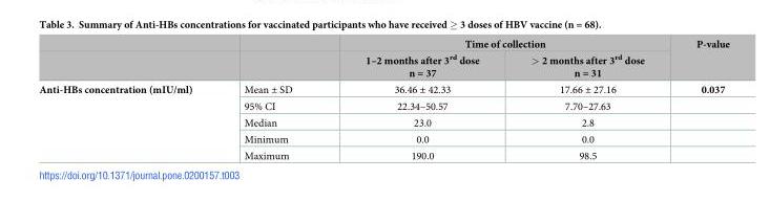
<table><thead><tr><td rowspan="2"></td><td rowspan="2"></td><td colspan="2">Time of collection</td><td rowspan="2">P-value</td></tr><tr><td>1–2 months after 3<sup>rd</sup> dose n = 37</td><td>&gt; 2 months after 3<sup>rd</sup> dose n = 31</td></tr></thead><tbody><tr><td rowspan="5">Anti-HBs concentration (mIU/ml)</td><td>Mean ± SD</td><td>36.46 ± 42.33</td><td>17.66 ± 27.16</td><td>0.037</td></tr><tr><td>95% CI</td><td>22.34–50.57</td><td>7.70–27.63</td><td></td></tr><tr><td>Median</td><td>23.0</td><td>2.8</td><td></td></tr><tr><td>Minimum</td><td>0.0</td><td>0.0</td><td></td></tr><tr><td>Maximum</td><td>190.0</td><td>98.5</td><td></td></tr></tbody></table>